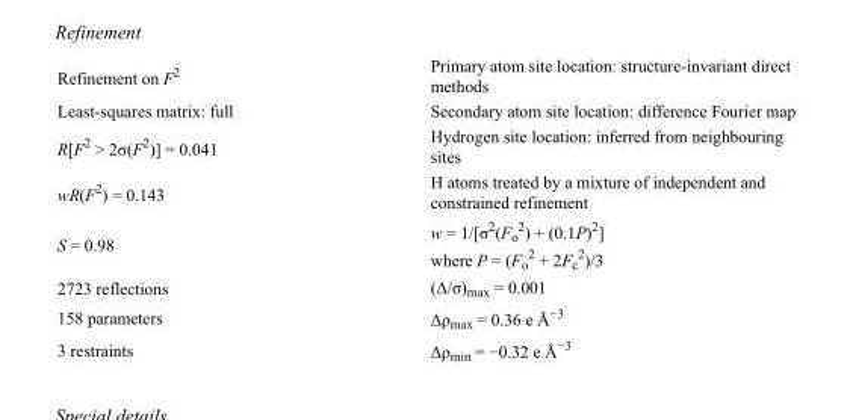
<table><tbody><tr><td>Refinement on F<sup>2</sup></td><td>Primary atom site location: structure-invariant direct methods</td></tr><tr><td>Least-squares matrix: full</td><td>Secondary atom site location: difference Fourier map</td></tr><tr><td>R[F<sup>2</sup> &gt; 2σ(F<sup>2</sup>)] = 0.041</td><td>Hydrogen site location: inferred from neighbouring sites</td></tr><tr><td>wR(F<sup>2</sup>) = 0.143</td><td>H atoms treated by a mixture of independent and constrained refinement</td></tr><tr><td>S = 0.98</td><td>w = 1/[σ<sup>2</sup>(F<sub>o</sub> <sup>2</sup>) + (0.1P)<sup>2</sup>] where P = (F<sub>o</sub> <sup>2</sup> + 2F<sub>c</sub> <sup>2</sup>)/3</td></tr><tr><td>2723 reflections</td><td>(Δ/σ)<sub>max</sub> = 0.001</td></tr><tr><td>158 parameters</td><td>Δρ<sub>max</sub> = 0.36 e Å<sup>−3</sup></td></tr><tr><td>3 restraints</td><td>Δρ<sub>min</sub> = −0.32 e Å<sup>−3</sup></td></tr></tbody></table>